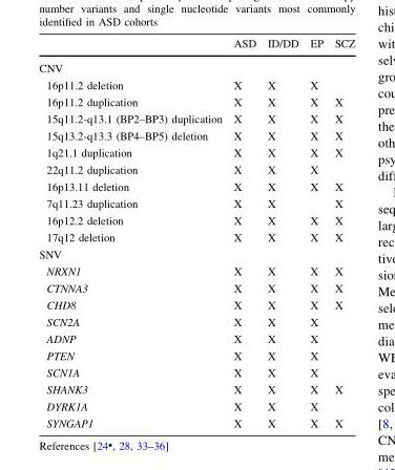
<table><thead><tr><td></td><td>ASD</td><td>ID/DD</td><td>EP</td><td>SCZ</td></tr></thead><tbody><tr><td colspan="5">CNV</td></tr><tr><td>16p11.2 deletion</td><td>X</td><td>X</td><td>X</td><td></td></tr><tr><td>16p11.2 duplication</td><td>X</td><td>X</td><td>X</td><td>X</td></tr><tr><td>15q11.2-q13.1 (BP2–BP3) duplication</td><td>X</td><td>X</td><td>X</td><td>X</td></tr><tr><td>15q13.2-q13.3 (BP4–BP5) deletion</td><td>X</td><td>X</td><td>X</td><td>X</td></tr><tr><td>1q21.1 duplication</td><td>X</td><td>X</td><td>X</td><td>X</td></tr><tr><td>22q11.2 duplication</td><td>X</td><td>X</td><td>X</td><td></td></tr><tr><td>16p13.11 deletion</td><td>X</td><td>X</td><td>X</td><td>X</td></tr><tr><td>7q11.23 duplication</td><td>X</td><td>X</td><td></td><td>X</td></tr><tr><td>16p12.2 deletion</td><td>X</td><td>X</td><td>X</td><td>X</td></tr><tr><td>17q12 deletion</td><td>X</td><td>X</td><td>X</td><td>X</td></tr><tr><td colspan="5">SNV</td></tr><tr><td>NRXN1</td><td>X</td><td>X</td><td>X</td><td>X</td></tr><tr><td>CTNNA3</td><td>X</td><td>X</td><td>X</td><td>X</td></tr><tr><td>CHD8</td><td>X</td><td>X</td><td>X</td><td>X</td></tr><tr><td>SCN2A</td><td>X</td><td>X</td><td>X</td><td></td></tr><tr><td>ADNP</td><td>X</td><td>X</td><td>X</td><td></td></tr><tr><td>PTEN</td><td>X</td><td>X</td><td>X</td><td></td></tr><tr><td>SCN1A</td><td>X</td><td>X</td><td>X</td><td></td></tr><tr><td>SHANK3</td><td>X</td><td>X</td><td>X</td><td>X</td></tr><tr><td>DYRK1A</td><td>X</td><td>X</td><td>X</td><td></td></tr><tr><td>SYNGAP1</td><td>X</td><td>X</td><td>X</td><td>X</td></tr></tbody></table>